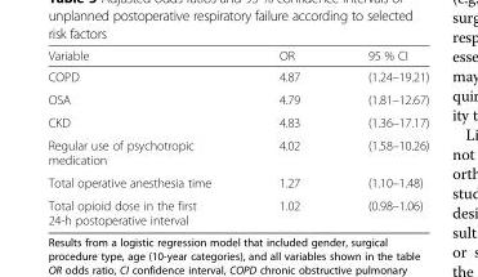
<table><thead><tr><td>Variable</td><td>OR</td><td>95 % CI</td></tr></thead><tbody><tr><td>COPD</td><td>4.87</td><td>(1.24–19.21)</td></tr><tr><td>OSA</td><td>4.79</td><td>(1.81–12.67)</td></tr><tr><td>CKD</td><td>4.83</td><td>(1.36–17.17)</td></tr><tr><td>Regular use of psychotropic medication</td><td>4.02</td><td>(1.58–10.26)</td></tr><tr><td>Total operative anesthesia time</td><td>1.27</td><td>(1.10–1.48)</td></tr><tr><td>Total opioid dose in the first 24-h postoperative interval</td><td>1.02</td><td>(0.98–1.06)</td></tr></tbody></table>